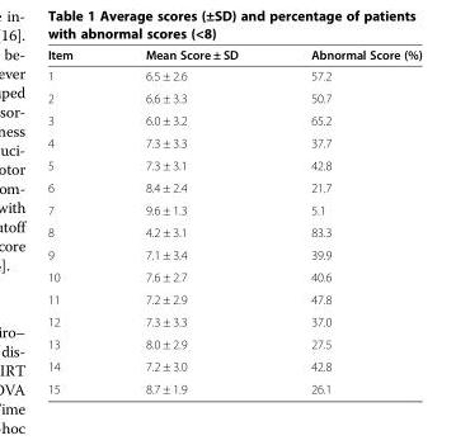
<table><thead><tr><td>Item</td><td>Mean Score ± SD</td><td>Abnormal Score (%)</td></tr></thead><tbody><tr><td>1</td><td>6.5 ± 2.6</td><td>57.2</td></tr><tr><td>2</td><td>6.6 ± 3.3</td><td>50.7</td></tr><tr><td>3</td><td>6.0 ± 3.2</td><td>65.2</td></tr><tr><td>4</td><td>7.3 ± 3.3</td><td>37.7</td></tr><tr><td>5</td><td>7.3 ± 3.1</td><td>42.8</td></tr><tr><td>6</td><td>8.4 ± 2.4</td><td>21.7</td></tr><tr><td>7</td><td>9.6 ± 1.3</td><td>5.1</td></tr><tr><td>8</td><td>4.2 ± 3.1</td><td>83.3</td></tr><tr><td>9</td><td>7.1 ± 3.4</td><td>39.9</td></tr><tr><td>10</td><td>7.6 ± 2.7</td><td>40.6</td></tr><tr><td>11</td><td>7.2 ± 2.9</td><td>47.8</td></tr><tr><td>12</td><td>7.3 ± 3.3</td><td>37.0</td></tr><tr><td>13</td><td>8.0 ± 2.9</td><td>27.5</td></tr><tr><td>14</td><td>7.2 ± 3.0</td><td>42.8</td></tr><tr><td>15</td><td>8.7 ± 1.9</td><td>26.1</td></tr></tbody></table>